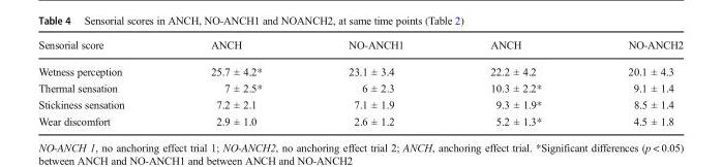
<table><thead><tr><td>Sensorial score</td><td>ANCH</td><td>NO-ANCH1</td><td>ANCH</td><td>NO-ANCH2</td></tr></thead><tbody><tr><td>Wetness perception</td><td>25.7 ± 4.2*</td><td>23.1 ± 3.4</td><td>22.2 ± 4.2</td><td>20.1 ± 4.3</td></tr><tr><td>Thermal sensation</td><td>7 ± 2.5*</td><td>6 ± 2.3</td><td>10.3 ± 2.2*</td><td>9.1 ± 1.4</td></tr><tr><td>Stickiness sensation</td><td>7.2 ± 2.1</td><td>7.1 ± 1.9</td><td>9.3 ± 1.9*</td><td>8.5 ± 1.4</td></tr><tr><td>Wear discomfort</td><td>2.9 ± 1.0</td><td>2.6 ± 1.2</td><td>5.2 ± 1.3*</td><td>4.5 ± 1.8</td></tr></tbody></table>